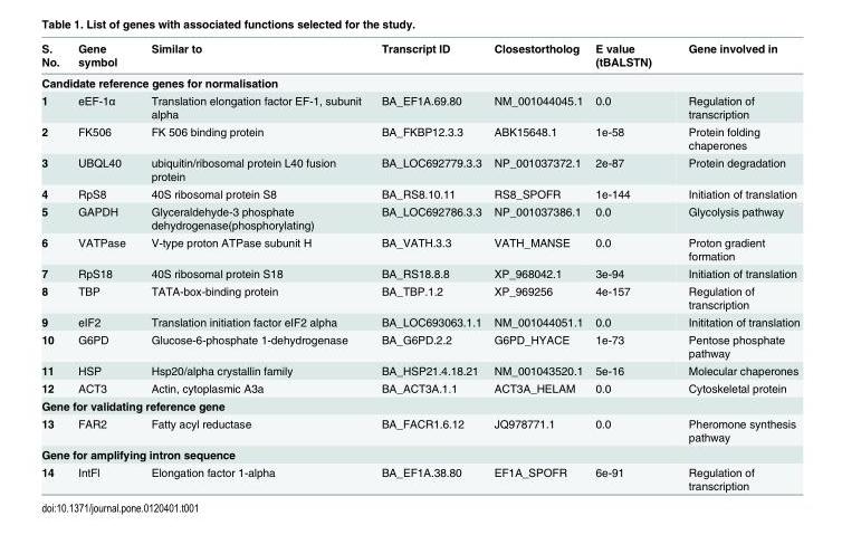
<table><thead><tr><td>S. No.</td><td>Gene symbol</td><td>Similar to</td><td>Transcript ID</td><td>Closestortholog</td><td>E value (tBALSTN)</td><td>Gene involved in</td></tr></thead><tbody><tr><td colspan="7">Candidate reference genes for normalisation</td></tr><tr><td>1</td><td>eEF-1α</td><td>Translation elongation factor EF-1, subunit alpha</td><td>BA_EF1A.69.80</td><td>NM_001044045.1</td><td>0.0</td><td>Regulation of transcription</td></tr><tr><td>2</td><td>FK506</td><td>FK 506 binding protein</td><td>BA_FKBP12.3.3</td><td>ABK15648.1</td><td>1e-58</td><td>Protein folding chaperones</td></tr><tr><td>3</td><td>UBQL40</td><td>ubiquitin/ribosomal protein L40 fusion protein</td><td>BA_LOC692779.3.3</td><td>NP_001037372.1</td><td>2e-87</td><td>Protein degradation</td></tr><tr><td>4</td><td>RpS8</td><td>40S ribosomal protein S8</td><td>BA_RS8.10.11</td><td>RS8_SPOFR</td><td>1e-144</td><td>Initiation of translation</td></tr><tr><td>5</td><td>GAPDH</td><td>Glyceraldehyde-3 phosphate dehydrogenase(phosphorylating)</td><td>BA_LOC692786.3.3</td><td>NP_001037386.1</td><td>0.0</td><td>Glycolysis pathway</td></tr><tr><td>6</td><td>VATPase</td><td>V-type proton ATPase subunit H</td><td>BA_VATH.3.3</td><td>VATH_MANSE</td><td>0.0</td><td>Proton gradient formation</td></tr><tr><td>7</td><td>RpS18</td><td>40S ribosomal protein S18</td><td>BA_RS18.8.8</td><td>XP_968042.1</td><td>3e-94</td><td>Initiation of translation</td></tr><tr><td>8</td><td>TBP</td><td>TATA-box-binding protein</td><td>BA_TBP.1.2</td><td>XP_969256</td><td>4e-157</td><td>Regulation of transcription</td></tr><tr><td>9</td><td>eIF2</td><td>Translation initiation factor eIF2 alpha</td><td>BA_LOC693063.1.1</td><td>NM_001044051.1</td><td>0.0</td><td>Inititation of translation</td></tr><tr><td>10</td><td>G6PD</td><td>Glucose-6-phosphate 1-dehydrogenase</td><td>BA_G6PD.2.2</td><td>G6PD_HYACE</td><td>1e-73</td><td>Pentose phosphate pathway</td></tr><tr><td>11</td><td>HSP</td><td>Hsp20/alpha crystallin family</td><td>BA_HSP21.4.18.21</td><td>NM_001043520.1</td><td>5e-16</td><td>Molecular chaperones</td></tr><tr><td>12</td><td>ACT3</td><td>Actin, cytoplasmic A3a</td><td>BA_ACT3A.1.1</td><td>ACT3A_HELAM</td><td>0.0</td><td>Cytoskeletal protein</td></tr><tr><td colspan="7">Gene for validating reference gene</td></tr><tr><td>13</td><td>FAR2</td><td>Fatty acyl reductase</td><td>BA_FACR1.6.12</td><td>JQ978771.1</td><td>0.0</td><td>Pheromone synthesis pathway</td></tr><tr><td colspan="7">Gene for amplifying intron sequence</td></tr><tr><td>14</td><td>IntFl</td><td>Elongation factor 1-alpha</td><td>BA_EF1A.38.80</td><td>EF1A_SPOFR</td><td>6e-91</td><td>Regulation of transcription</td></tr></tbody></table>